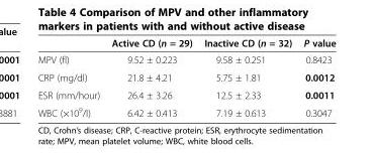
<table><thead><tr><td></td><td>Active CD (n = 29)</td><td>Inactive CD (n = 32)</td><td>P value</td></tr></thead><tbody><tr><td>MPV (fl)</td><td>9.52 ± 0.223</td><td>9.58 ± 0.251</td><td>0.8423</td></tr><tr><td>CRP (mg/dl)</td><td>21.8 ± 4.21</td><td>5.75 ± 1.81</td><td>0.0012</td></tr><tr><td>ESR (mm/hour)</td><td>26.4 ± 3.26</td><td>12.5 ± 2.33</td><td>0.0011</td></tr><tr><td>WBC (×10<sup>9</sup>/l)</td><td>6.42 ± 0.413</td><td>7.19 ± 0.613</td><td>0.3047</td></tr></tbody></table>